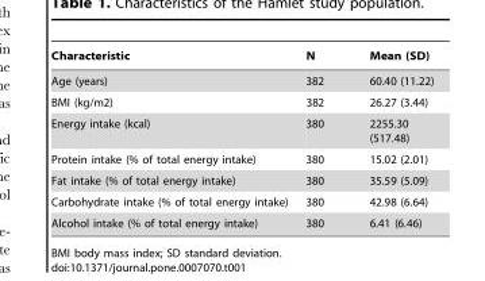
<table><thead><tr><td>Characteristic</td><td>N</td><td>Mean (SD)</td></tr></thead><tbody><tr><td>Age (years)</td><td>382</td><td>60.40 (11.22)</td></tr><tr><td>BMI (kg/m2)</td><td>382</td><td>26.27 (3.44)</td></tr><tr><td>Energy intake (kcal)</td><td>380</td><td>2255.30 (517.48)</td></tr><tr><td>Protein intake (% of total energy intake)</td><td>380</td><td>15.02 (2.01)</td></tr><tr><td>Fat intake (% of total energy intake)</td><td>380</td><td>35.59 (5.09)</td></tr><tr><td>Carbohydrate intake (% of total energy intake)</td><td>380</td><td>42.98 (6.64)</td></tr><tr><td>Alcohol intake (% of total energy intake)</td><td>380</td><td>6.41 (6.46)</td></tr></tbody></table>